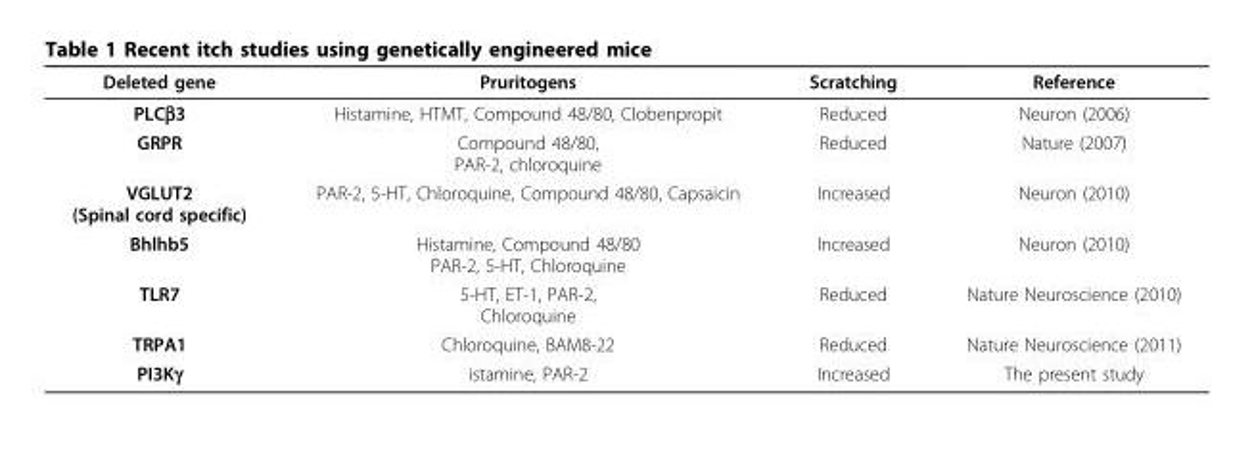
<table><thead><tr><td>Deleted gene</td><td>Pruritogens</td><td>Scratching</td><td>Reference</td></tr></thead><tbody><tr><td>PLCβ3</td><td>Histamine, HTMT, Compound 48/80, Clobenpropit</td><td>Reduced</td><td>Neuron (2006)</td></tr><tr><td>GRPR</td><td>Compound 48/80, PAR-2, chloroquine</td><td>Reduced</td><td>Nature (2007)</td></tr><tr><td>VGLUT2 (Spinal cord specific)</td><td>PAR-2, 5-HT, Chloroquine, Compound 48/80, Capsaicin</td><td>Increased</td><td>Neuron (2010)</td></tr><tr><td>Bhlhb5</td><td>Histamine, Compound 48/80 PAR-2, 5-HT, Chloroquine</td><td>Increased</td><td>Neuron (2010)</td></tr><tr><td>TLR7</td><td>5-HT, ET-1, PAR-2, Chloroquine</td><td>Reduced</td><td>Nature Neuroscience (2010)</td></tr><tr><td>TRPA1</td><td>Chloroquine, BAM8-22</td><td>Reduced</td><td>Nature Neuroscience (2011)</td></tr><tr><td>PI3Kγ</td><td>istamine, PAR-2</td><td>Increased</td><td>The present study</td></tr></tbody></table>